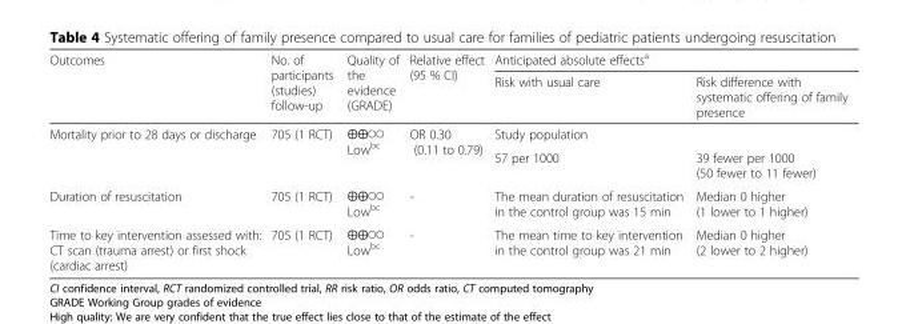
<table><thead><tr><td rowspan="2">Outcomes</td><td rowspan="2">No. of participants (studies) follow-up</td><td rowspan="2">Quality of the evidence (GRADE)</td><td rowspan="2">Relative effect (95 % CI)</td><td colspan="2">Anticipated absolute effects<sup>a</sup></td></tr><tr><td>Risk with usual care</td><td>Risk difference with systematic offering of family presence</td></tr></thead><tbody><tr><td rowspan="2">Mortality prior to 28 days or discharge</td><td rowspan="2">705 (1 RCT)</td><td rowspan="2">⨁⨁◯◯ Low<sup>bc</sup></td><td rowspan="2">OR 0.30 (0.11 to 0.79)</td><td colspan="2">Study population</td></tr><tr><td>57 per 1000</td><td>39 fewer per 1000 (50 fewer to 11 fewer)</td></tr><tr><td>Duration of resuscitation</td><td>705 (1 RCT)</td><td>⨁⨁◯◯ Low<sup>bc</sup></td><td>-</td><td>The mean duration of resuscitation in the control group was 15 min</td><td>Median 0 higher (1 lower to 1 higher)</td></tr><tr><td>Time to key intervention assessed with: CT scan (trauma arrest) or first shock (cardiac arrest)</td><td>705 (1 RCT)</td><td>⨁⨁◯◯ Low<sup>bc</sup></td><td>-</td><td>The mean time to key intervention in the control group was 21 min</td><td>Median 0 higher (2 lower to 2 higher)</td></tr></tbody></table>